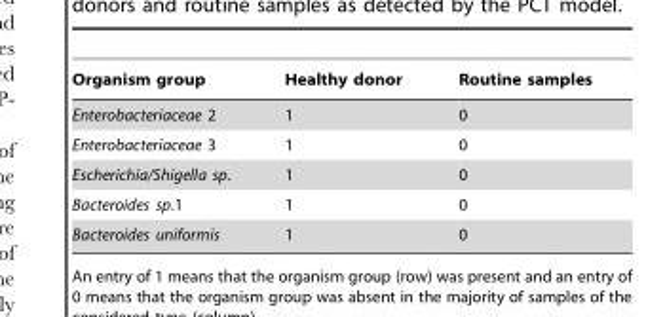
<table><thead><tr><td>Organism group</td><td>Healthy donor</td><td>Routine samples</td></tr></thead><tbody><tr><td>Enterobacteriaceae 2</td><td>1</td><td>0</td></tr><tr><td>Enterobacteriaceae 3</td><td>1</td><td>0</td></tr><tr><td>Escherichia/Shigella sp.</td><td>1</td><td>0</td></tr><tr><td>Bacteroides sp.1</td><td>1</td><td>0</td></tr><tr><td>Bacteroides uniformis</td><td>1</td><td>0</td></tr></tbody></table>